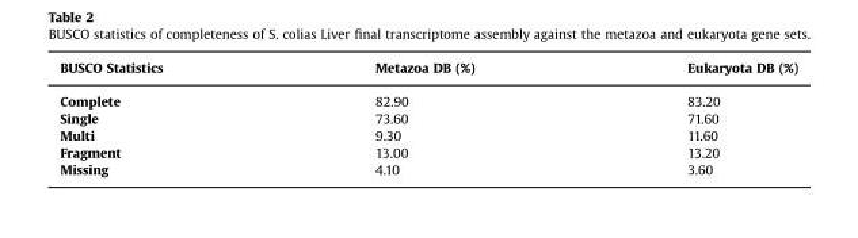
<table><thead><tr><td>BUSCO Statistics</td><td>Metazoa DB (%)</td><td>Eukaryota DB (%)</td></tr></thead><tbody><tr><td>Complete</td><td>82.90</td><td>83.20</td></tr><tr><td>Single</td><td>73.60</td><td>71.60</td></tr><tr><td>Multi</td><td>9.30</td><td>11.60</td></tr><tr><td>Fragment</td><td>13.00</td><td>13.20</td></tr><tr><td>Missing</td><td>4.10</td><td>3.60</td></tr></tbody></table>